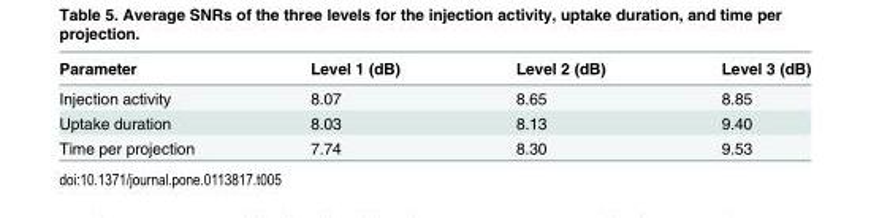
<table><thead><tr><td>Parameter</td><td>Level 1 (dB)</td><td>Level 2 (dB)</td><td>Level 3 (dB)</td></tr></thead><tbody><tr><td>Injection activity</td><td>8.07</td><td>8.65</td><td>8.85</td></tr><tr><td>Uptake duration</td><td>8.03</td><td>8.13</td><td>9.40</td></tr><tr><td>Time per projection</td><td>7.74</td><td>8.30</td><td>9.53</td></tr></tbody></table>